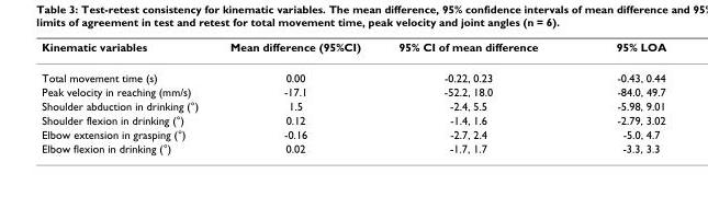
<table><thead><tr><td>Kinematic variables</td><td>Mean difference (95%CI)</td><td>95% CI of mean difference</td><td>95% LOA</td></tr></thead><tbody><tr><td>Total movement time (s)</td><td>0.00</td><td>-0.22, 0.23</td><td>-0.43, 0.44</td></tr><tr><td>Peak velocity in reaching (mm/s)</td><td>-17.1</td><td>-52.2, 18.0</td><td>-84.0, 49.7</td></tr><tr><td>Shoulder abduction in drinking (°)</td><td>1.5</td><td>-2.4, 5.5</td><td>-5.98, 9.01</td></tr><tr><td>Shoulder flexion in drinking (°)</td><td>0.12</td><td>-1.4, 1.6</td><td>-2.79, 3.02</td></tr><tr><td>Elbow extension in grasping (°)</td><td>-0.16</td><td>-2.7, 2.4</td><td>-5.0, 4.7</td></tr><tr><td>Elbow flexion in drinking (°)</td><td>0.02</td><td>-1.7, 1.7</td><td>-3.3, 3.3</td></tr></tbody></table>